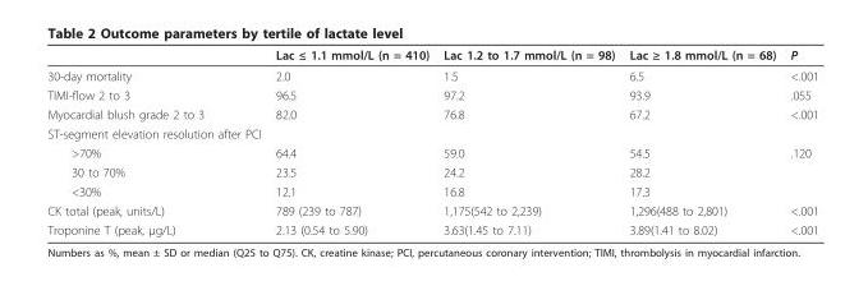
<table><thead><tr><td></td><td>Lac ≤ 1.1 mmol/L (n = 410)</td><td>Lac 1.2 to 1.7 mmol/L (n = 98)</td><td>Lac ≥ 1.8 mmol/L (n = 68)</td><td>P</td></tr></thead><tbody><tr><td>30-day mortality</td><td>2.0</td><td>1.5</td><td>6.5</td><td>&lt;.001</td></tr><tr><td>TIMI-flow 2 to 3</td><td>96.5</td><td>97.2</td><td>93.9</td><td>.055</td></tr><tr><td>Myocardial blush grade 2 to 3</td><td>82.0</td><td>76.8</td><td>67.2</td><td>&lt;.001</td></tr><tr><td colspan="5">ST-segment elevation resolution after PCI</td></tr><tr><td>&gt;70%</td><td>64.4</td><td>59.0</td><td>54.5</td><td>.120</td></tr><tr><td>30 to 70%</td><td>23.5</td><td>24.2</td><td>28.2</td><td></td></tr><tr><td>&lt;30%</td><td>12.1</td><td>16.8</td><td>17.3</td><td></td></tr><tr><td>CK total (peak, units/L)</td><td>789 (239 to 787)</td><td>1,175(542 to 2,239)</td><td>1,296(488 to 2,801)</td><td>&lt;.001</td></tr><tr><td>Troponine T (peak, μg/L)</td><td>2.13 (0.54 to 5.90)</td><td>3.63(1.45 to 7.11)</td><td>3.89(1.41 to 8.02)</td><td>&lt;.001</td></tr></tbody></table>